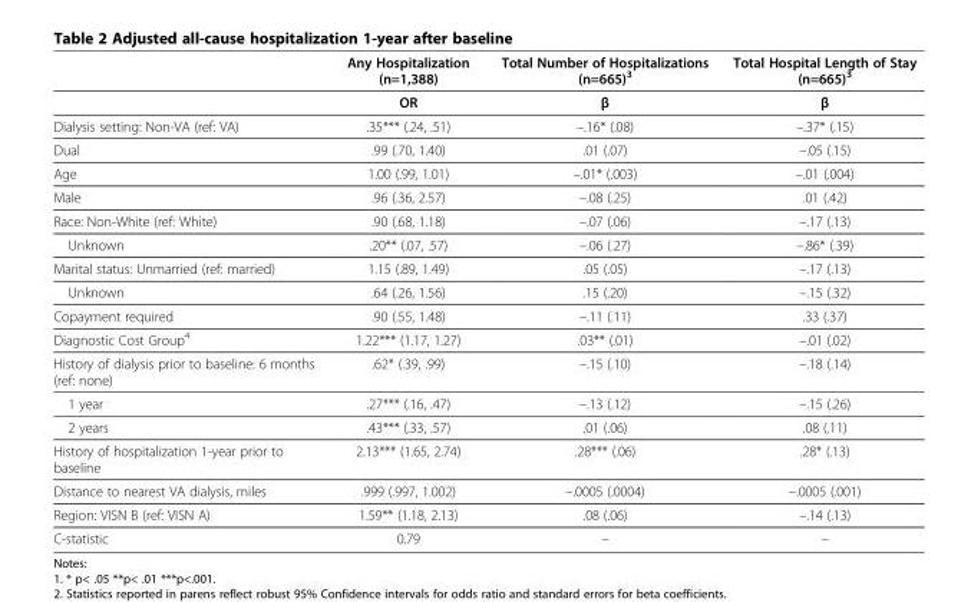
<table><thead><tr><td></td><td>Any Hospitalization (n=1,388)</td><td>Total Number of Hospitalizations (n=665)<sup>3</sup></td><td>Total Hospital Length of Stay (n=665)<sup>3</sup></td></tr></thead><tbody><tr><td></td><td>OR</td><td>β</td><td>β</td></tr><tr><td>Dialysis setting: Non-VA (ref: VA)</td><td>.35*** (.24, .51)</td><td>–.16* (.08)</td><td>–.37* (.15)</td></tr><tr><td>Dual</td><td>.99 (.70, 1.40)</td><td>.01 (.07)</td><td>–.05 (.15)</td></tr><tr><td>Age</td><td>1.00 (.99, 1.01)</td><td>–.01* (.003)</td><td>–.01 (.004)</td></tr><tr><td>Male</td><td>.96 (.36, 2.57)</td><td>–.08 (.25)</td><td>.01 (.42)</td></tr><tr><td>Race: Non-White (ref: White)</td><td>.90 (.68, 1.18)</td><td>–.07 (.06)</td><td>–.17 (.13)</td></tr><tr><td>Unknown</td><td>.20** (.07, .57)</td><td>–.06 (.27)</td><td>–.86* (.39)</td></tr><tr><td>Marital status: Unmarried (ref: married)</td><td>1.15 (.89, 1.49)</td><td>.05 (.05)</td><td>–.17 (.13)</td></tr><tr><td>Unknown</td><td>.64 (.26, 1.56)</td><td>.15 (.20)</td><td>–.15 (.32)</td></tr><tr><td>Copayment required</td><td>.90 (.55, 1.48)</td><td>–.11 (.11)</td><td>.33 (.37)</td></tr><tr><td>Diagnostic Cost Group<sup>4</sup></td><td>1.22*** (1.17, 1.27)</td><td>.03** (.01)</td><td>–.01 (.02)</td></tr><tr><td>History of dialysis prior to baseline: 6 months (ref: none)</td><td>.62* (.39, .99)</td><td>–.15 (.10)</td><td>–.18 (.14)</td></tr><tr><td>1 year</td><td>.27*** (.16, .47)</td><td>–.13 (.12)</td><td>–.15 (.26)</td></tr><tr><td>2 years</td><td>.43*** (.33, .57)</td><td>.01 (.06)</td><td>.08 (.11)</td></tr><tr><td>History of hospitalization 1-year prior to baseline</td><td>2.13*** (1.65, 2.74)</td><td>.28*** (.06)</td><td>.28* (.13)</td></tr><tr><td>Distance to nearest VA dialysis, miles</td><td>.999 (.997, 1.002)</td><td>–.0005 (.0004)</td><td>–.0005 (.001)</td></tr><tr><td>Region: VISN B (ref: VISN A)</td><td>1.59** (1.18, 2.13)</td><td>.08 (.06)</td><td>–.14 (.13)</td></tr><tr><td>C-statistic</td><td>0.79</td><td>–</td><td>–</td></tr></tbody></table>